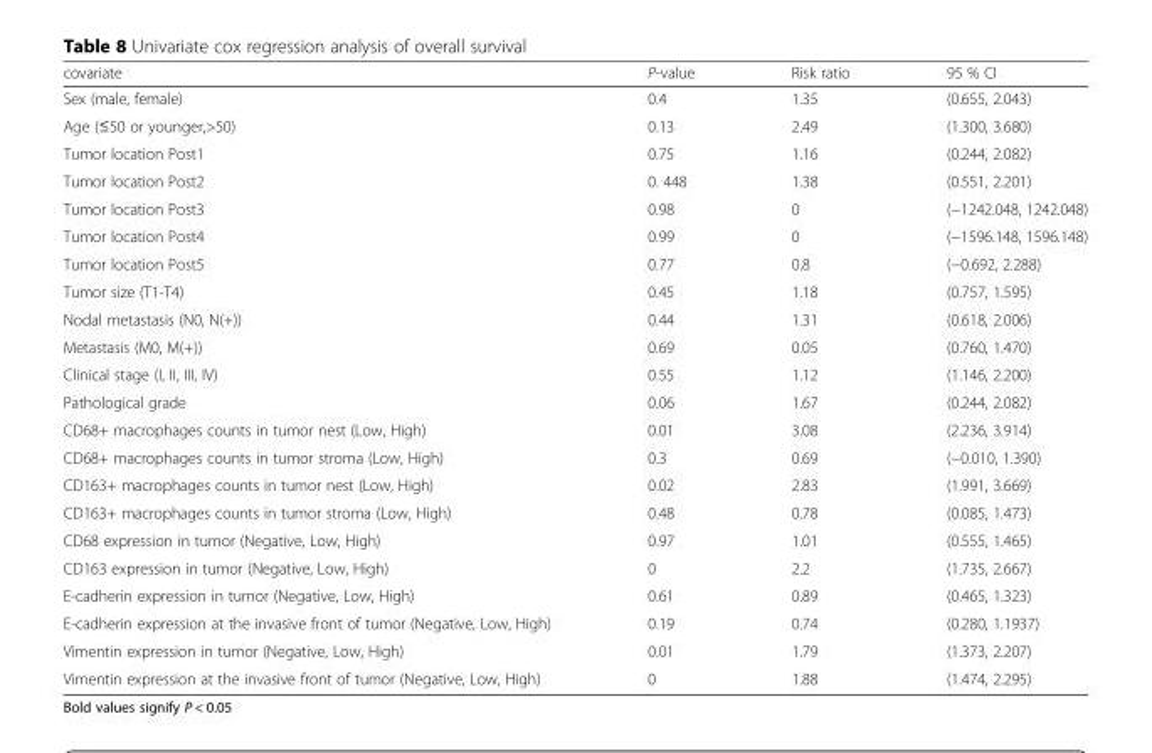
<table><thead><tr><td>covariate</td><td>P-value</td><td>Risk ratio</td><td>95 % CI</td></tr></thead><tbody><tr><td>Sex (male, female)</td><td>0.4</td><td>1.35</td><td>(0.655, 2.043)</td></tr><tr><td>Age (≤50 or younger,&gt;50)</td><td>0.13</td><td>2.49</td><td>(1.300, 3.680)</td></tr><tr><td>Tumor location Post1</td><td>0.75</td><td>1.16</td><td>(0.244, 2.082)</td></tr><tr><td>Tumor location Post2</td><td>0. 448</td><td>1.38</td><td>(0.551, 2.201)</td></tr><tr><td>Tumor location Post3</td><td>0.98</td><td>0</td><td>(−1242.048, 1242.048)</td></tr><tr><td>Tumor location Post4</td><td>0.99</td><td>0</td><td>(−1596.148, 1596.148)</td></tr><tr><td>Tumor location Post5</td><td>0.77</td><td>0.8</td><td>(−0.692, 2.288)</td></tr><tr><td>Tumor size (T1-T4)</td><td>0.45</td><td>1.18</td><td>(0.757, 1.595)</td></tr><tr><td>Nodal metastasis (N0, N(+))</td><td>0.44</td><td>1.31</td><td>(0.618, 2.006)</td></tr><tr><td>Metastasis (M0, M(+))</td><td>0.69</td><td>0.05</td><td>(0.760, 1.470)</td></tr><tr><td>Clinical stage (I, II, III, IV)</td><td>0.55</td><td>1.12</td><td>(1.146, 2.200)</td></tr><tr><td>Pathological grade</td><td>0.06</td><td>1.67</td><td>(0.244, 2.082)</td></tr><tr><td>CD68+ macrophages counts in tumor nest (Low, High)</td><td>0.01</td><td>3.08</td><td>(2.236, 3.914)</td></tr><tr><td>CD68+ macrophages counts in tumor stroma (Low, High)</td><td>0.3</td><td>0.69</td><td>(−0.010, 1.390)</td></tr><tr><td>CD163+ macrophages counts in tumor nest (Low, High)</td><td>0.02</td><td>2.83</td><td>(1.991, 3.669)</td></tr><tr><td>CD163+ macrophages counts in tumor stroma (Low, High)</td><td>0.48</td><td>0.78</td><td>(0.085, 1.473)</td></tr><tr><td>CD68 expression in tumor (Negative, Low, High)</td><td>0.97</td><td>1.01</td><td>(0.555, 1.465)</td></tr><tr><td>CD163 expression in tumor (Negative, Low, High)</td><td>0</td><td>2.2</td><td>(1.735, 2.667)</td></tr><tr><td>E-cadherin expression in tumor (Negative, Low, High)</td><td>0.61</td><td>0.89</td><td>(0.465, 1.323)</td></tr><tr><td>E-cadherin expression at the invasive front of tumor (Negative, Low, High)</td><td>0.19</td><td>0.74</td><td>(0.280, 1.1937)</td></tr><tr><td>Vimentin expression in tumor (Negative, Low, High)</td><td>0.01</td><td>1.79</td><td>(1.373, 2.207)</td></tr><tr><td>Vimentin expression at the invasive front of tumor (Negative, Low, High)</td><td>0</td><td>1.88</td><td>(1.474, 2.295)</td></tr></tbody></table>